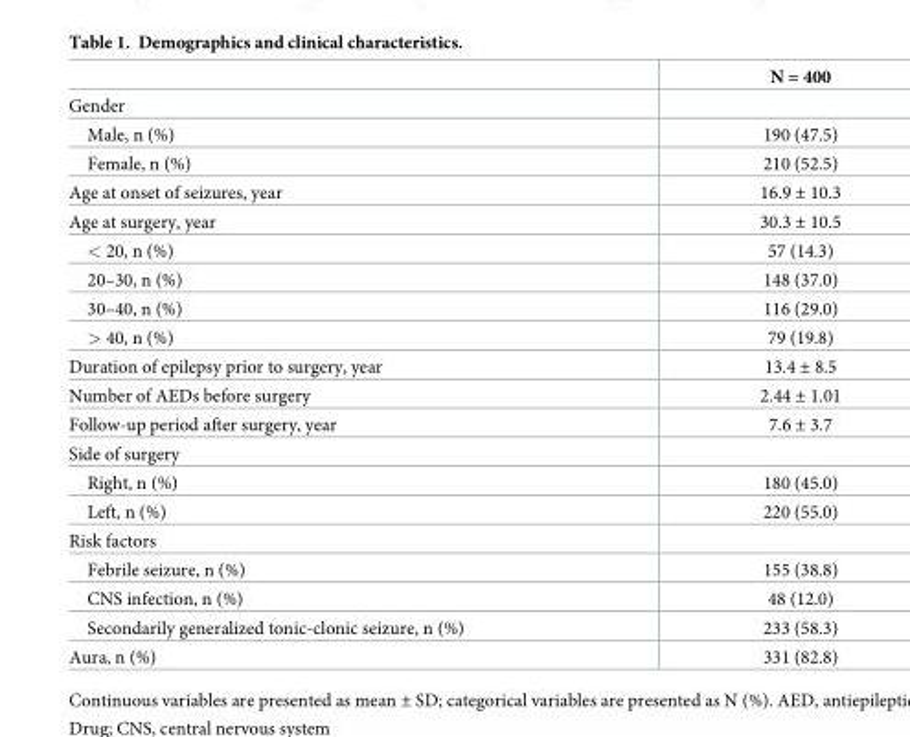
<table><thead><tr><td></td><td>N = 400</td></tr></thead><tbody><tr><td colspan="2">Gender</td></tr><tr><td>Male, n (%)</td><td>190 (47.5)</td></tr><tr><td>Female, n (%)</td><td>210 (52.5)</td></tr><tr><td>Age at onset of seizures, year</td><td>16.9 ± 10.3</td></tr><tr><td>Age at surgery, year</td><td>30.3 ± 10.5</td></tr><tr><td>&lt; 20, n (%)</td><td>57 (14.3)</td></tr><tr><td>20–30, n (%)</td><td>148 (37.0)</td></tr><tr><td>30–40, n (%)</td><td>116 (29.0)</td></tr><tr><td>&gt; 40, n (%)</td><td>79 (19.8)</td></tr><tr><td>Duration of epilepsy prior to surgery, year</td><td>13.4 ± 8.5</td></tr><tr><td>Number of AEDs before surgery</td><td>2.44 ± 1.01</td></tr><tr><td>Follow-up period after surgery, year</td><td>7.6 ± 3.7</td></tr><tr><td colspan="2">Side of surgery</td></tr><tr><td>Right, n (%)</td><td>180 (45.0)</td></tr><tr><td>Left, n (%)</td><td>220 (55.0)</td></tr><tr><td colspan="2">Risk factors</td></tr><tr><td>Febrile seizure, n (%)</td><td>155 (38.8)</td></tr><tr><td>CNS infection, n (%)</td><td>48 (12.0)</td></tr><tr><td>Secondarily generalized tonic-clonic seizure, n (%)</td><td>233 (58.3)</td></tr><tr><td>Aura, n (%)</td><td>331 (82.8)</td></tr></tbody></table>